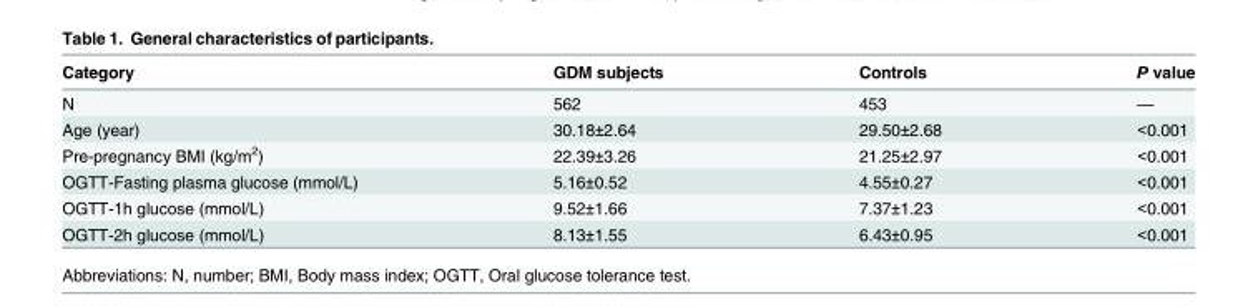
<table><thead><tr><td>Category</td><td>GDM subjects</td><td>Controls</td><td>P value</td></tr></thead><tbody><tr><td>N</td><td>562</td><td>453</td><td>—</td></tr><tr><td>Age (year)</td><td>30.18±2.64</td><td>29.50±2.68</td><td>&lt;0.001</td></tr><tr><td>Pre-pregnancy BMI (kg/m<sup>2</sup>)</td><td>22.39±3.26</td><td>21.25±2.97</td><td>&lt;0.001</td></tr><tr><td>OGTT-Fasting plasma glucose (mmol/L)</td><td>5.16±0.52</td><td>4.55±0.27</td><td>&lt;0.001</td></tr><tr><td>OGTT-1h glucose (mmol/L)</td><td>9.52±1.66</td><td>7.37±1.23</td><td>&lt;0.001</td></tr><tr><td>OGTT-2h glucose (mmol/L)</td><td>8.13±1.55</td><td>6.43±0.95</td><td>&lt;0.001</td></tr></tbody></table>